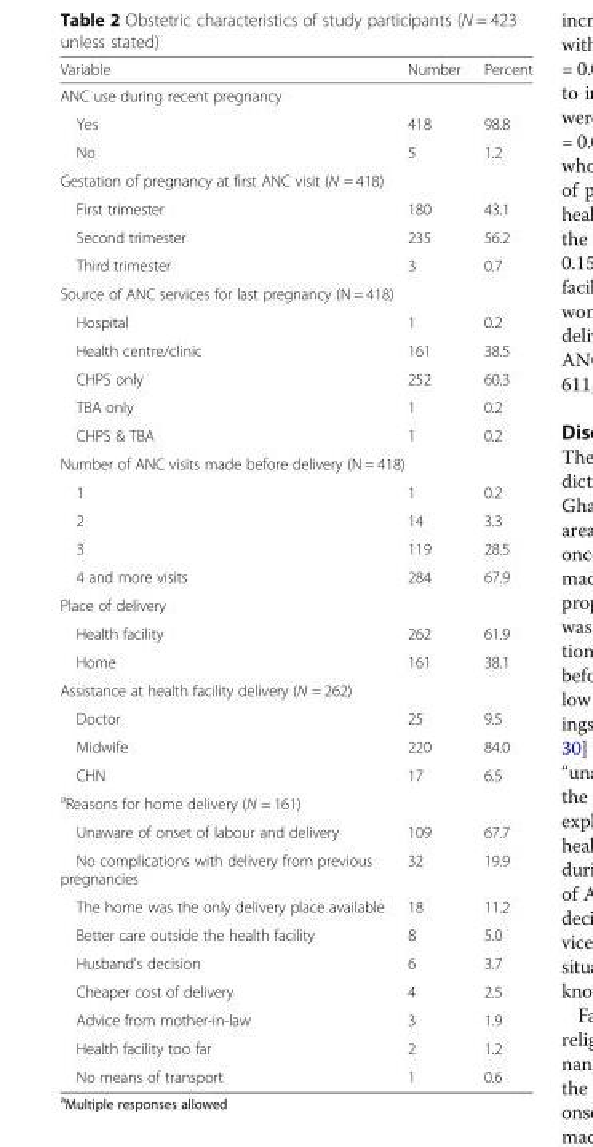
<table><thead><tr><td>Variable</td><td>Number</td><td>Percent</td></tr></thead><tbody><tr><td colspan="3">ANC use during recent pregnancy</td></tr><tr><td>Yes</td><td>418</td><td>98.8</td></tr><tr><td>No</td><td>5</td><td>1.2</td></tr><tr><td colspan="3">Gestation of pregnancy at first ANC visit (N = 418)</td></tr><tr><td>First trimester</td><td>180</td><td>43.1</td></tr><tr><td>Second trimester</td><td>235</td><td>56.2</td></tr><tr><td>Third trimester</td><td>3</td><td>0.7</td></tr><tr><td colspan="3">Source of ANC services for last pregnancy (N = 418)</td></tr><tr><td>Hospital</td><td>1</td><td>0.2</td></tr><tr><td>Health centre/clinic</td><td>161</td><td>38.5</td></tr><tr><td>CHPS only</td><td>252</td><td>60.3</td></tr><tr><td>TBA only</td><td>1</td><td>0.2</td></tr><tr><td>CHPS &amp; TBA</td><td>1</td><td>0.2</td></tr><tr><td colspan="3">Number of ANC visits made before delivery (N = 418)</td></tr><tr><td>1</td><td>1</td><td>0.2</td></tr><tr><td>2</td><td>14</td><td>3.3</td></tr><tr><td>3</td><td>119</td><td>28.5</td></tr><tr><td>4 and more visits</td><td>284</td><td>67.9</td></tr><tr><td colspan="3">Place of delivery</td></tr><tr><td>Health facility</td><td>262</td><td>61.9</td></tr><tr><td>Home</td><td>161</td><td>38.1</td></tr><tr><td colspan="3">Assistance at health facility delivery (N = 262)</td></tr><tr><td>Doctor</td><td>25</td><td>9.5</td></tr><tr><td>Midwife</td><td>220</td><td>84.0</td></tr><tr><td>CHN</td><td>17</td><td>6.5</td></tr><tr><td colspan="3"><sup>a</sup>Reasons for home delivery (N = 161)</td></tr><tr><td>Unaware of onset of labour and delivery</td><td>109</td><td>67.7</td></tr><tr><td>No complications with delivery from previous pregnancies</td><td>32</td><td>19.9</td></tr><tr><td>The home was the only delivery place available</td><td>18</td><td>11.2</td></tr><tr><td>Better care outside the health facility</td><td>8</td><td>5.0</td></tr><tr><td>Husband’s decision</td><td>6</td><td>3.7</td></tr><tr><td>Cheaper cost of delivery</td><td>4</td><td>2.5</td></tr><tr><td>Advice from mother-in-law</td><td>3</td><td>1.9</td></tr><tr><td>Health facility too far</td><td>2</td><td>1.2</td></tr><tr><td>No means of transport</td><td>1</td><td>0.6</td></tr></tbody></table>